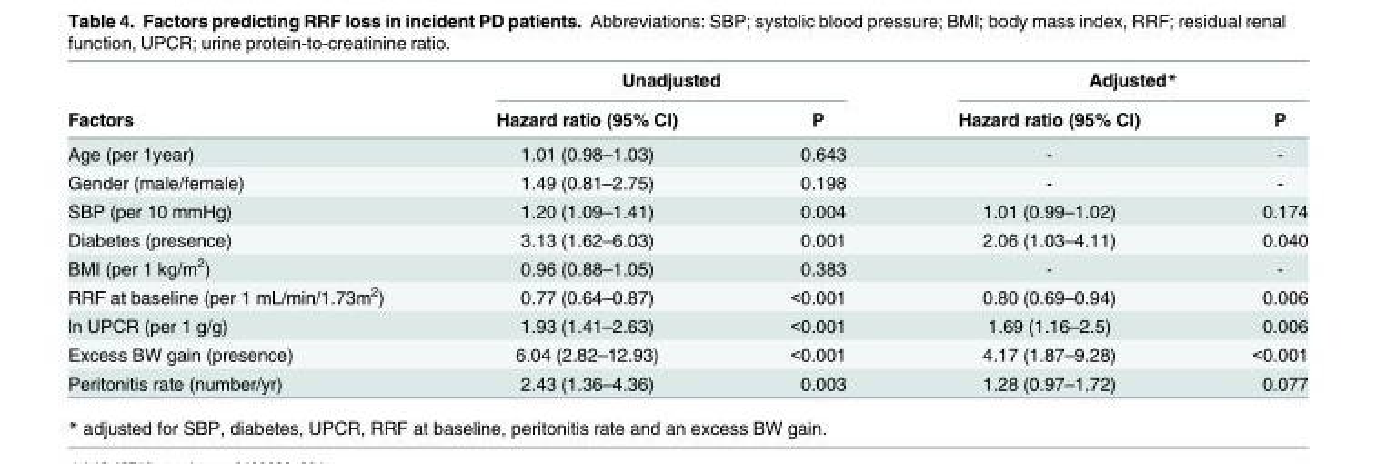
<table><thead><tr><td rowspan="2">Factors</td><td colspan="2">Unadjusted</td><td colspan="2">Adjusted*</td></tr><tr><td>Hazard ratio (95% CI)</td><td>P</td><td>Hazard ratio (95% CI)</td><td>P</td></tr></thead><tbody><tr><td>Age (per 1year)</td><td>1.01 (0.98–1.03)</td><td>0.643</td><td>-</td><td>-</td></tr><tr><td>Gender (male/female)</td><td>1.49 (0.81–2.75)</td><td>0.198</td><td>-</td><td>-</td></tr><tr><td>SBP (per 10 mmHg)</td><td>1.20 (1.09–1.41)</td><td>0.004</td><td>1.01 (0.99–1.02)</td><td>0.174</td></tr><tr><td>Diabetes (presence)</td><td>3.13 (1.62–6.03)</td><td>0.001</td><td>2.06 (1.03–4.11)</td><td>0.040</td></tr><tr><td>BMI (per 1 kg/m<sup>2</sup>)</td><td>0.96 (0.88–1.05)</td><td>0.383</td><td>-</td><td>-</td></tr><tr><td>RRF at baseline (per 1 mL/min/1.73m<sup>2</sup>)</td><td>0.77 (0.64–0.87)</td><td>&lt;0.001</td><td>0.80 (0.69–0.94)</td><td>0.006</td></tr><tr><td>ln UPCR (per 1 g/g)</td><td>1.93 (1.41–2.63)</td><td>&lt;0.001</td><td>1.69 (1.16–2.5)</td><td>0.006</td></tr><tr><td>Excess BW gain (presence)</td><td>6.04 (2.82–12.93)</td><td>&lt;0.001</td><td>4.17 (1.87–9.28)</td><td>&lt;0.001</td></tr><tr><td>Peritonitis rate (number/yr)</td><td>2.43 (1.36–4.36)</td><td>0.003</td><td>1.28 (0.97–1.72)</td><td>0.077</td></tr></tbody></table>